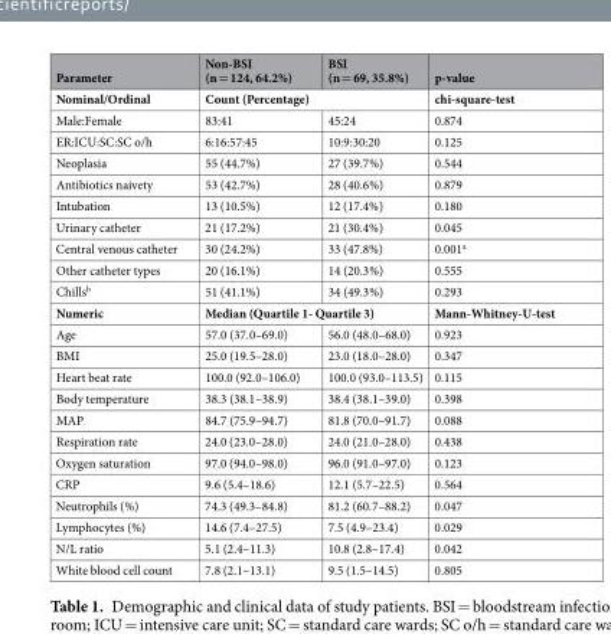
<table><thead><tr><td>Parameter</td><td>Non-BSI (n = 124, 64.2%)</td><td>BSI (n = 69, 35.8%)</td><td>p-value</td></tr></thead><tbody><tr><td>Nominal/Ordinal</td><td colspan="2">Count (Percentage)</td><td>chi-square-test</td></tr><tr><td>Male:Female</td><td>83:41</td><td>45:24</td><td>0.874</td></tr><tr><td>ER:ICU:SC:SC o/h</td><td>6:16:57:45</td><td>10:9:30:20</td><td>0.125</td></tr><tr><td>Neoplasia</td><td>55 (44.7%)</td><td>27 (39.7%)</td><td>0.544</td></tr><tr><td>Antibiotics naivety</td><td>53 (42.7%)</td><td>28 (40.6%)</td><td>0.879</td></tr><tr><td>Intubation</td><td>13 (10.5%)</td><td>12 (17.4%)</td><td>0.180</td></tr><tr><td>Urinary catheter</td><td>21 (17.2%)</td><td>21 (30.4%)</td><td>0.045</td></tr><tr><td>Central venous catheter</td><td>30 (24.2%)</td><td>33 (47.8%)</td><td>0.001<sup>a</sup></td></tr><tr><td>Other catheter types</td><td>20 (16.1%)</td><td>14 (20.3%)</td><td>0.555</td></tr><tr><td>Chills<sup>b</sup></td><td>51 (41.1%)</td><td>34 (49.3%)</td><td>0.293</td></tr><tr><td>Numeric</td><td colspan="2">Median (Quartile 1- Quartile 3)</td><td>Mann-Whitney-U-test</td></tr><tr><td>Age</td><td>57.0 (37.0–69.0)</td><td>56.0 (48.0–68.0)</td><td>0.923</td></tr><tr><td>BMI</td><td>25.0 (19.5–28.0)</td><td>23.0 (18.0–28.0)</td><td>0.347</td></tr><tr><td>Heart beat rate</td><td>100.0 (92.0–106.0)</td><td>100.0 (93.0–113.5)</td><td>0.115</td></tr><tr><td>Body temperature</td><td>38.3 (38.1–38.9)</td><td>38.4 (38.1–39.0)</td><td>0.398</td></tr><tr><td>MAP</td><td>84.7 (75.9–94.7)</td><td>81.8 (70.0–91.7)</td><td>0.088</td></tr><tr><td>Respiration rate</td><td>24.0 (23.0–28.0)</td><td>24.0 (21.0–28.0)</td><td>0.438</td></tr><tr><td>Oxygen saturation</td><td>97.0 (94.0–98.0)</td><td>96.0 (91.0–97.0)</td><td>0.123</td></tr><tr><td>CRP</td><td>9.6 (5.4–18.6)</td><td>12.1 (5.7–22.5)</td><td>0.564</td></tr><tr><td>Neutrophils (%)</td><td>74.3 (49.3–84.8)</td><td>81.2 (60.7–88.2)</td><td>0.047</td></tr><tr><td>Lymphocytes (%)</td><td>14.6 (7.4–27.5)</td><td>7.5 (4.9–23.4)</td><td>0.029</td></tr><tr><td>N/L ratio</td><td>5.1 (2.4–11.3)</td><td>10.8 (2.8–17.4)</td><td>0.042</td></tr><tr><td>White blood cell count</td><td>7.8 (2.1–13.1)</td><td>9.5 (1.5–14.5)</td><td>0.805</td></tr></tbody></table>